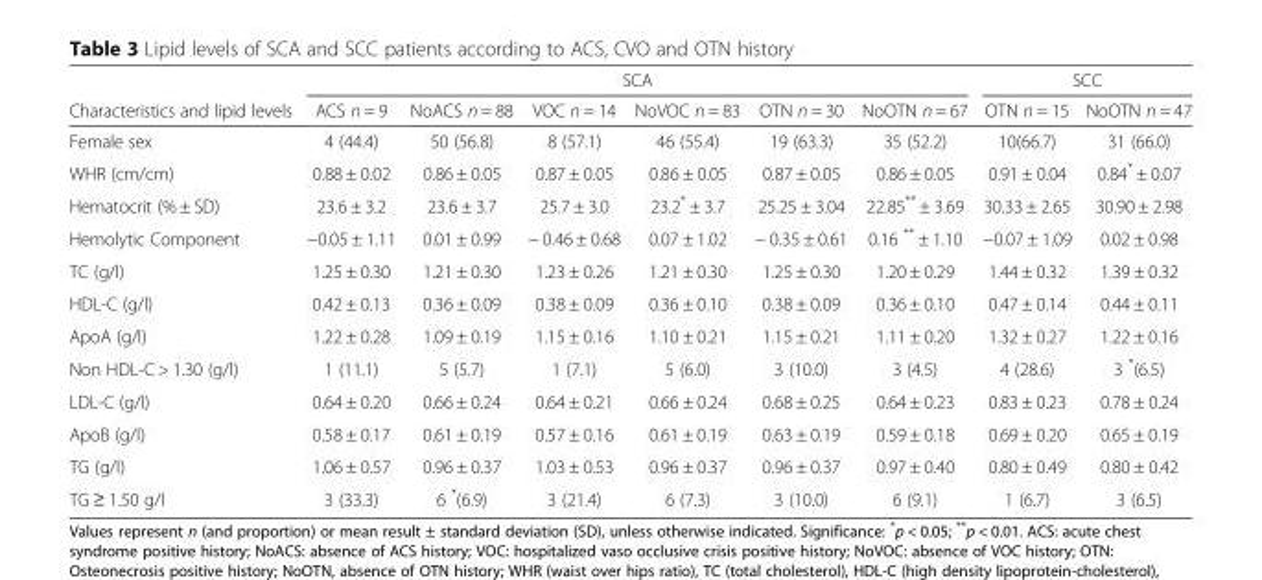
<table><thead><tr><td rowspan="2">Characteristics and lipid levels</td><td colspan="6">SCA</td><td colspan="2">SCC</td></tr><tr><td>ACS n = 9</td><td>NoACS n = 88</td><td>VOC n = 14</td><td>NoVOC n = 83</td><td>OTN n = 30</td><td>NoOTN n = 67</td><td>OTN n = 15</td><td>NoOTN n = 47</td></tr></thead><tbody><tr><td>Female sex</td><td>4 (44.4)</td><td>50 (56.8)</td><td>8 (57.1)</td><td>46 (55.4)</td><td>19 (63.3)</td><td>35 (52.2)</td><td>10(66.7)</td><td>31 (66.0)</td></tr><tr><td>WHR (cm/cm)</td><td>0.88 ± 0.02</td><td>0.86 ± 0.05</td><td>0.87 ± 0.05</td><td>0.86 ± 0.05</td><td>0.87 ± 0.05</td><td>0.86 ± 0.05</td><td>0.91 ± 0.04</td><td>0.84* ± 0.07</td></tr><tr><td>Hematocrit (% ± SD)</td><td>23.6 ± 3.2</td><td>23.6 ± 3.7</td><td>25.7 ± 3.0</td><td>23.2* ± 3.7</td><td>25.25 ± 3.04</td><td>22.85** ± 3.69</td><td>30.33 ± 2.65</td><td>30.90 ± 2.98</td></tr><tr><td>Hemolytic Component</td><td>−0.05 ± 1.11</td><td>0.01 ± 0.99</td><td>− 0.46 ± 0.68</td><td>0.07 ± 1.02</td><td>− 0.35 ± 0.61</td><td>0.16 ** ± 1.10</td><td>−0.07 ± 1.09</td><td>0.02 ± 0.98</td></tr><tr><td>TC (g/l)</td><td>1.25 ± 0.30</td><td>1.21 ± 0.30</td><td>1.23 ± 0.26</td><td>1.21 ± 0.30</td><td>1.25 ± 0.30</td><td>1.20 ± 0.29</td><td>1.44 ± 0.32</td><td>1.39 ± 0.32</td></tr><tr><td>HDL-C (g/l)</td><td>0.42 ± 0.13</td><td>0.36 ± 0.09</td><td>0.38 ± 0.09</td><td>0.36 ± 0.10</td><td>0.38 ± 0.09</td><td>0.36 ± 0.10</td><td>0.47 ± 0.14</td><td>0.44 ± 0.11</td></tr><tr><td>ApoA (g/l)</td><td>1.22 ± 0.28</td><td>1.09 ± 0.19</td><td>1.15 ± 0.16</td><td>1.10 ± 0.21</td><td>1.15 ± 0.21</td><td>1.11 ± 0.20</td><td>1.32 ± 0.27</td><td>1.22 ± 0.16</td></tr><tr><td>Non HDL-C &gt; 1.30 (g/l)</td><td>1 (11.1)</td><td>5 (5.7)</td><td>1 (7.1)</td><td>5 (6.0)</td><td>3 (10.0)</td><td>3 (4.5)</td><td>4 (28.6)</td><td>3 *(6.5)</td></tr><tr><td>LDL-C (g/l)</td><td>0.64 ± 0.20</td><td>0.66 ± 0.24</td><td>0.64 ± 0.21</td><td>0.66 ± 0.24</td><td>0.68 ± 0.25</td><td>0.64 ± 0.23</td><td>0.83 ± 0.23</td><td>0.78 ± 0.24</td></tr><tr><td>ApoB (g/l)</td><td>0.58 ± 0.17</td><td>0.61 ± 0.19</td><td>0.57 ± 0.16</td><td>0.61 ± 0.19</td><td>0.63 ± 0.19</td><td>0.59 ± 0.18</td><td>0.69 ± 0.20</td><td>0.65 ± 0.19</td></tr><tr><td>TG (g/l)</td><td>1.06 ± 0.57</td><td>0.96 ± 0.37</td><td>1.03 ± 0.53</td><td>0.96 ± 0.37</td><td>0.96 ± 0.37</td><td>0.97 ± 0.40</td><td>0.80 ± 0.49</td><td>0.80 ± 0.42</td></tr><tr><td>TG ≥ 1.50 g/l</td><td>3 (33.3)</td><td>6 *(6.9)</td><td>3 (21.4)</td><td>6 (7.3)</td><td>3 (10.0)</td><td>6 (9.1)</td><td>1 (6.7)</td><td>3 (6.5)</td></tr></tbody></table>